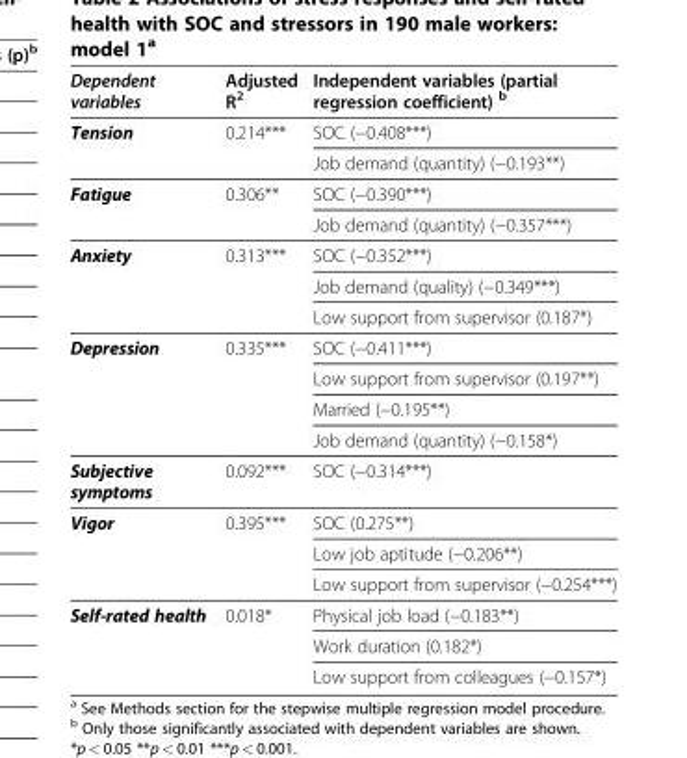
<table><thead><tr><td>Dependent variables</td><td>Adjusted R<sup>2</sup></td><td>Independent variables (partial regression coefficient) <sup>b</sup></td></tr></thead><tbody><tr><td rowspan="2">Tension</td><td rowspan="2">0.214***</td><td>SOC (−0.408***)</td></tr><tr><td>Job demand (quantity) (−0.193**)</td></tr><tr><td rowspan="2">Fatigue</td><td rowspan="2">0.306**</td><td>SOC (−0.390***)</td></tr><tr><td>Job demand (quantity) (−0.357***)</td></tr><tr><td rowspan="3">Anxiety</td><td rowspan="3">0.313***</td><td>SOC (−0.352***)</td></tr><tr><td>Job demand (quality) (−0.349***)</td></tr><tr><td>Low support from supervisor (0.187*)</td></tr><tr><td rowspan="4">Depression</td><td rowspan="4">0.335***</td><td>SOC (−0.411***)</td></tr><tr><td>Low support from supervisor (0.197**)</td></tr><tr><td>Married (−0.195**)</td></tr><tr><td>Job demand (quantity) (−0.158*)</td></tr><tr><td>Subjective symptoms</td><td>0.092***</td><td>SOC (−0.314***)</td></tr><tr><td rowspan="3">Vigor</td><td rowspan="3">0.395***</td><td>SOC (0.275**)</td></tr><tr><td>Low job aptitude (−0.206**)</td></tr><tr><td>Low support from supervisor (−0.254***)</td></tr><tr><td rowspan="3">Self-rated health</td><td rowspan="3">0.018*</td><td>Physical job load (−0.183**)</td></tr><tr><td>Work duration (0.182*)</td></tr><tr><td>Low support from colleagues (−0.157*)</td></tr></tbody></table>